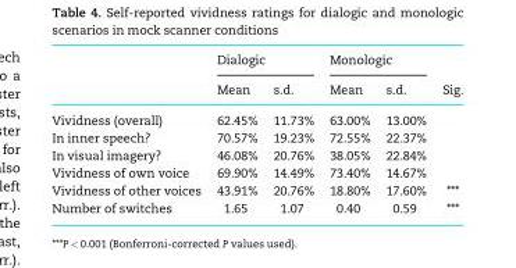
<table><thead><tr><td rowspan="2"></td><td colspan="2">Dialogic</td><td colspan="2">Monologic</td><td rowspan="2">Sig.</td></tr><tr><td>Mean</td><td>s.d.</td><td>Mean</td><td>s.d.</td></tr></thead><tbody><tr><td>Vividness (overall)</td><td>62.45%</td><td>11.73%</td><td>63.00%</td><td>13.00%</td><td></td></tr><tr><td>In inner speech?</td><td>70.57%</td><td>19.23%</td><td>72.55%</td><td>22.37%</td><td></td></tr><tr><td>In visual imagery?</td><td>46.08%</td><td>20.76%</td><td>38.05%</td><td>22.84%</td><td></td></tr><tr><td>Vividness of own voice</td><td>69.90%</td><td>14.49%</td><td>73.40%</td><td>14.67%</td><td></td></tr><tr><td>Vividness of other voices</td><td>43.91%</td><td>20.76%</td><td>18.80%</td><td>17.60%</td><td>***</td></tr><tr><td>Number of switches</td><td>1.65</td><td>1.07</td><td>0.40</td><td>0.59</td><td>***</td></tr></tbody></table>